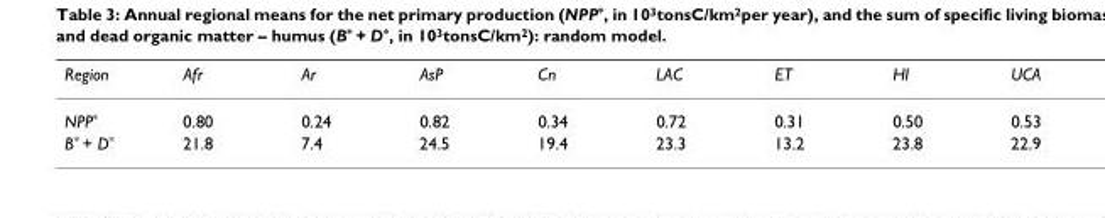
<table><thead><tr><td>Region</td><td>Afr</td><td>Ar</td><td>AsP</td><td>Cn</td><td>LAC</td><td>ET</td><td>HI</td><td>UCA</td></tr></thead><tbody><tr><td>NPP*</td><td>0.80</td><td>0.24</td><td>0.82</td><td>0.34</td><td>0.72</td><td>0.31</td><td>0.50</td><td>0.53</td></tr><tr><td>B* + D*</td><td>21.8</td><td>7.4</td><td>24.5</td><td>19.4</td><td>23.3</td><td>13.2</td><td>23.8</td><td>22.9</td></tr></tbody></table>